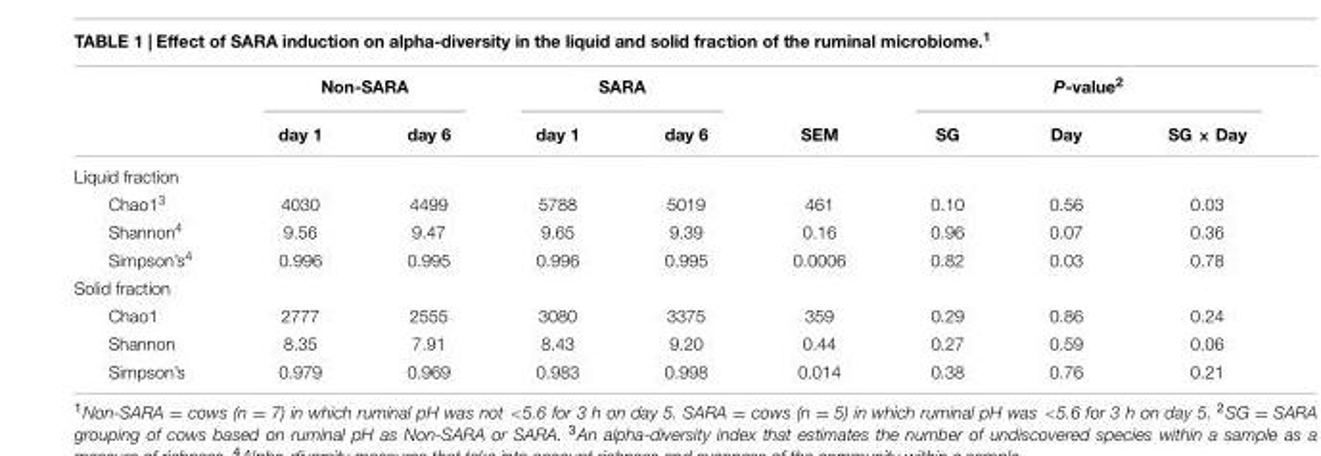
<table><thead><tr><td rowspan="2"></td><td colspan="2">Non-SARA</td><td colspan="2">SARA</td><td rowspan="2">SEM</td><td colspan="3">P-value<sup>2</sup></td></tr><tr><td>day 1</td><td>day 6</td><td>day 1</td><td>day 6</td><td>SG</td><td>Day</td><td>SG × Day</td></tr></thead><tbody><tr><td colspan="9">Liquid fraction</td></tr><tr><td>Chao1<sup>3</sup></td><td>4030</td><td>4499</td><td>5788</td><td>5019</td><td>461</td><td>0.10</td><td>0.56</td><td>0.03</td></tr><tr><td>Shannon<sup>4</sup></td><td>9.56</td><td>9.47</td><td>9.65</td><td>9.39</td><td>0.16</td><td>0.96</td><td>0.07</td><td>0.36</td></tr><tr><td>Simpson’s<sup>4</sup></td><td>0.996</td><td>0.995</td><td>0.996</td><td>0.995</td><td>0.0006</td><td>0.82</td><td>0.03</td><td>0.78</td></tr><tr><td colspan="9">Solid fraction</td></tr><tr><td>Chao1</td><td>2777</td><td>2555</td><td>3080</td><td>3375</td><td>359</td><td>0.29</td><td>0.86</td><td>0.24</td></tr><tr><td>Shannon</td><td>8.35</td><td>7.91</td><td>8.43</td><td>9.20</td><td>0.44</td><td>0.27</td><td>0.59</td><td>0.06</td></tr><tr><td>Simpson’s</td><td>0.979</td><td>0.969</td><td>0.983</td><td>0.998</td><td>0.014</td><td>0.38</td><td>0.76</td><td>0.21</td></tr></tbody></table>